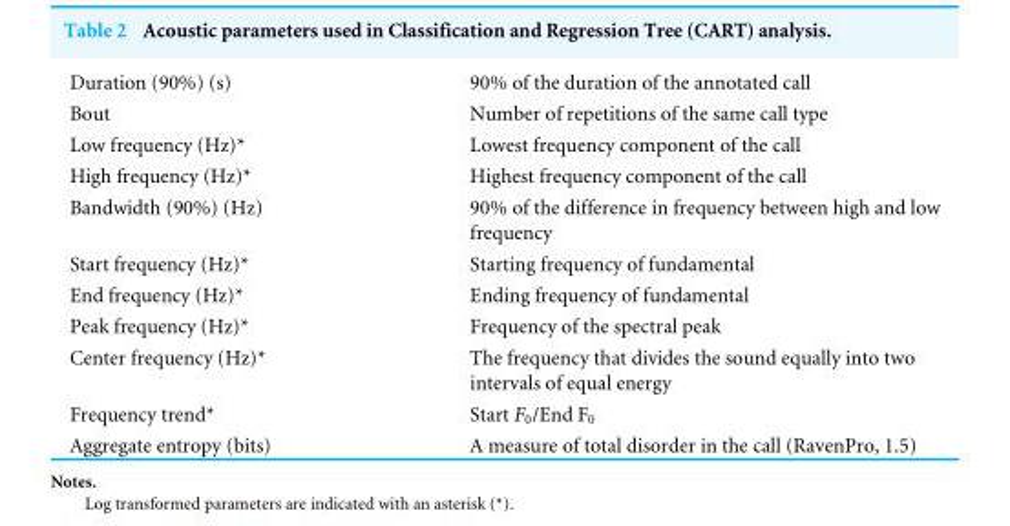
<table><tbody><tr><td>Duration (90%) (s)</td><td>90% of the duration of the annotated call</td></tr><tr><td>Bout</td><td>Number of repetitions of the same call type</td></tr><tr><td>Low frequency (Hz)*</td><td>Lowest frequency component of the call</td></tr><tr><td>High frequency (Hz)*</td><td>Highest frequency component of the call</td></tr><tr><td>Bandwidth (90%) (Hz)</td><td>90% of the difference in frequency between high and low frequency</td></tr><tr><td>Start frequency (Hz)*</td><td>Starting frequency of fundamental</td></tr><tr><td>End frequency (Hz)*</td><td>Ending frequency of fundamental</td></tr><tr><td>Peak frequency (Hz)*</td><td>Frequency of the spectral peak</td></tr><tr><td>Center frequency (Hz)*</td><td>The frequency that divides the sound equally into two intervals of equal energy</td></tr><tr><td>Frequency trend*</td><td>Start F<sub>0</sub>/End F<sub>0</sub></td></tr><tr><td>Aggregate entropy (bits)</td><td>A measure of total disorder in the call (RavenPro, 1.5)</td></tr></tbody></table>